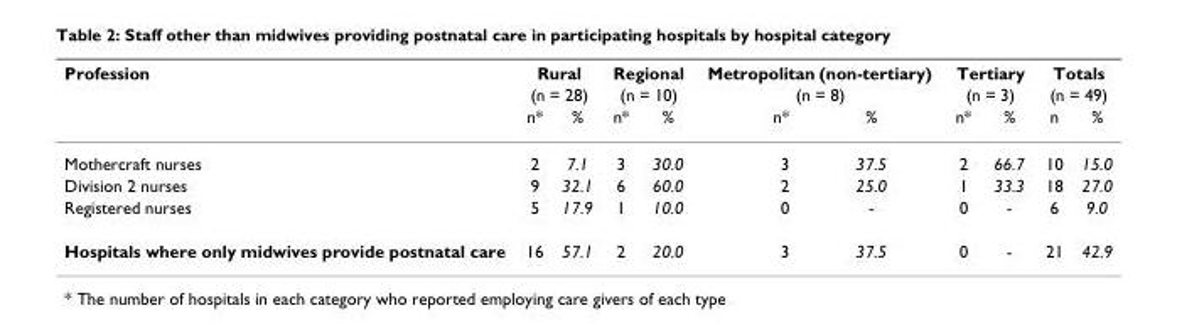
<table><thead><tr><td rowspan="3">Profession</td><td rowspan="2" colspan="2">Rural (n = 28)</td><td rowspan="2" colspan="2">Regional (n = 10)</td><td rowspan="2" colspan="2">Metropolitan (non-tertiary) (n = 8)</td><td rowspan="2" colspan="2">Tertiary (n = 3)</td><td rowspan="2" colspan="2">Totals (n = 49)</td></tr><tr></tr><tr><td>n*</td><td>%</td><td>n*</td><td>%</td><td>n*</td><td>%</td><td>n*</td><td>%</td><td>n</td><td>%</td></tr></thead><tbody><tr><td>Mothercraft nurses</td><td>2</td><td>7.1</td><td>3</td><td>30.0</td><td>3</td><td>37.5</td><td>2</td><td>66.7</td><td>10</td><td>15.0</td></tr><tr><td>Division 2 nurses</td><td>9</td><td>32.1</td><td>6</td><td>60.0</td><td>2</td><td>25.0</td><td>1</td><td>33.3</td><td>18</td><td>27.0</td></tr><tr><td>Registered nurses</td><td>5</td><td>17.9</td><td>1</td><td>10.0</td><td>0</td><td>-</td><td>0</td><td>-</td><td>6</td><td>9.0</td></tr><tr><td>Hospitals where only midwives provide postnatal care</td><td>16</td><td>57.1</td><td>2</td><td>20.0</td><td>3</td><td>37.5</td><td>0</td><td>-</td><td>21</td><td>42.9</td></tr></tbody></table>